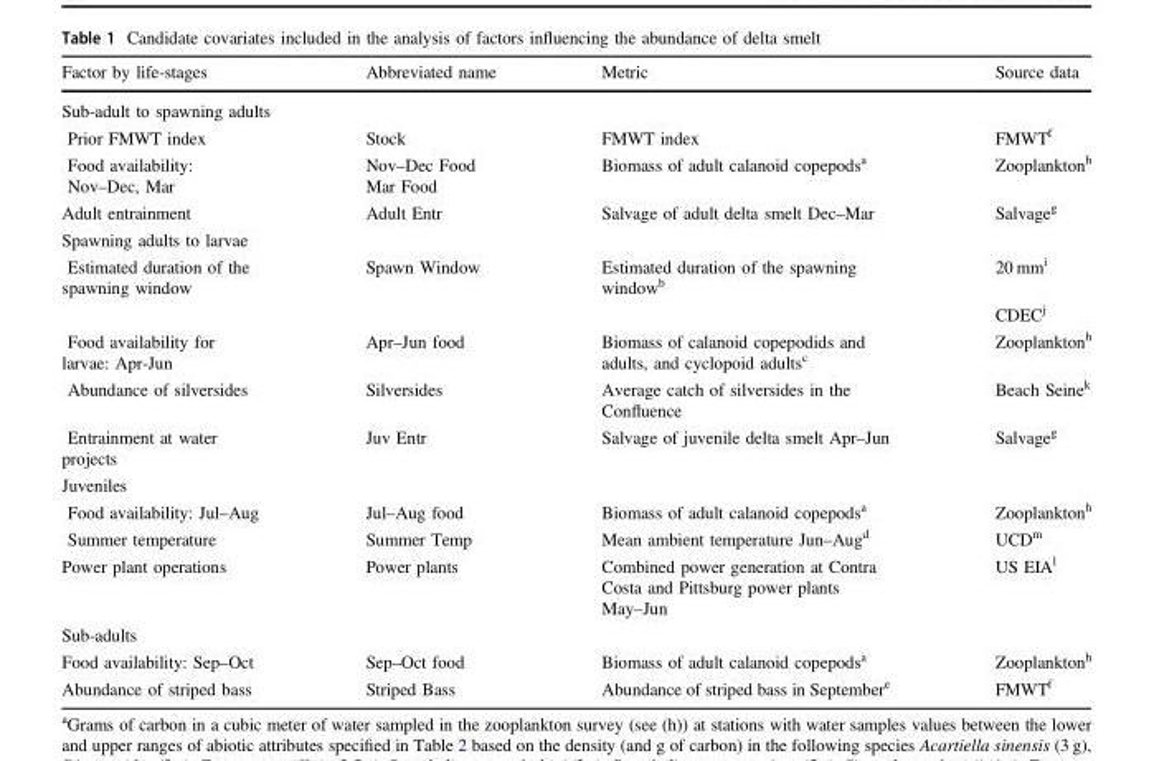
<table><thead><tr><td>Factor by life-stages</td><td>Abbreviated name</td><td>Metric</td><td>Source data</td></tr></thead><tbody><tr><td colspan="4">Sub-adult to spawning adults</td></tr><tr><td>Prior FMWT index</td><td>Stock</td><td>FMWT index</td><td>FMWT<sup>f</sup></td></tr><tr><td>Food availability: Nov–Dec, Mar</td><td>Nov–Dec Food Mar Food</td><td>Biomass of adult calanoid copepods<sup>a</sup></td><td>Zooplankton<sup>h</sup></td></tr><tr><td>Adult entrainment</td><td>Adult Entr</td><td>Salvage of adult delta smelt Dec–Mar</td><td>Salvage<sup>g</sup></td></tr><tr><td colspan="4">Spawning adults to larvae</td></tr><tr><td rowspan="2">Estimated duration of the spawning window</td><td>Spawn Window</td><td>Estimated duration of the spawning window<sup>b</sup></td><td>20 mm<sup>i</sup></td></tr><tr><td></td><td></td><td>CDEC<sup>j</sup></td></tr><tr><td>Food availability for larvae: Apr-Jun</td><td>Apr–Jun food</td><td>Biomass of calanoid copepodids and adults, and cyclopoid adults<sup>c</sup></td><td>Zooplankton<sup>h</sup></td></tr><tr><td>Abundance of silversides</td><td>Silversides</td><td>Average catch of silversides in the Confluence</td><td>Beach Seine<sup>k</sup></td></tr><tr><td>Entrainment at water projects</td><td>Juv Entr</td><td>Salvage of juvenile delta smelt Apr–Jun</td><td>Salvage<sup>g</sup></td></tr><tr><td colspan="4">Juveniles</td></tr><tr><td>Food availability: Jul–Aug</td><td>Jul–Aug food</td><td>Biomass of adult calanoid copepods<sup>a</sup></td><td>Zooplankton<sup>h</sup></td></tr><tr><td>Summer temperature</td><td>Summer Temp</td><td>Mean ambient temperature Jun–Aug<sup>d</sup></td><td>UCD<sup>m</sup></td></tr><tr><td>Power plant operations</td><td>Power plants</td><td>Combined power generation at Contra Costa and Pittsburg power plants May–Jun</td><td>US EIA<sup>l</sup></td></tr><tr><td colspan="4">Sub-adults</td></tr><tr><td>Food availability: Sep–Oct</td><td>Sep–Oct food</td><td>Biomass of adult calanoid copepods<sup>a</sup></td><td>Zooplankton<sup>h</sup></td></tr><tr><td>Abundance of striped bass</td><td>Striped Bass</td><td>Abundance of striped bass in September<sup>e</sup></td><td>FMWT<sup>f</sup></td></tr></tbody></table>